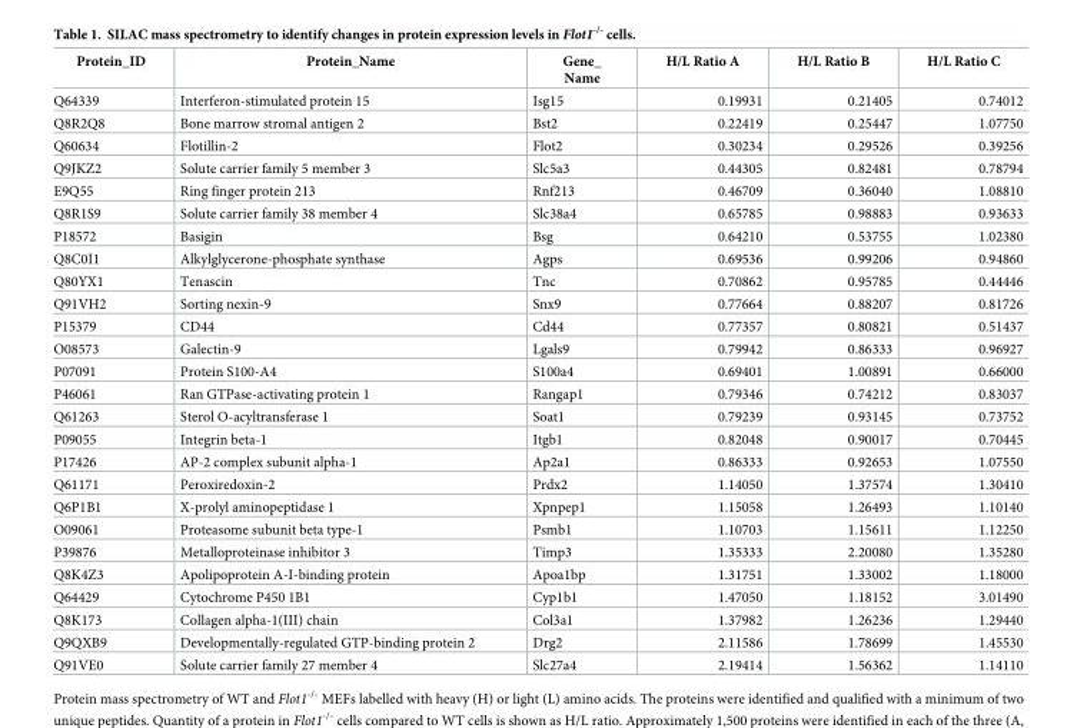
<table><thead><tr><td>Protein_ID</td><td>Protein_Name</td><td>Gene_ Name</td><td>H/L Ratio A</td><td>H/L Ratio B</td><td>H/L Ratio C</td></tr></thead><tbody><tr><td>Q64339</td><td>Interferon-stimulated protein 15</td><td>Isg15</td><td>0.19931</td><td>0.21405</td><td>0.74012</td></tr><tr><td>Q8R2Q8</td><td>Bone marrow stromal antigen 2</td><td>Bst2</td><td>0.22419</td><td>0.25447</td><td>1.07750</td></tr><tr><td>Q60634</td><td>Flotillin-2</td><td>Flot2</td><td>0.30234</td><td>0.29526</td><td>0.39256</td></tr><tr><td>Q9JKZ2</td><td>Solute carrier family 5 member 3</td><td>Slc5a3</td><td>0.44305</td><td>0.82481</td><td>0.78794</td></tr><tr><td>E9Q55</td><td>Ring finger protein 213</td><td>Rnf213</td><td>0.46709</td><td>0.36040</td><td>1.08810</td></tr><tr><td>Q8R1S9</td><td>Solute carrier family 38 member 4</td><td>Slc38a4</td><td>0.65785</td><td>0.98883</td><td>0.93633</td></tr><tr><td>P18572</td><td>Basigin</td><td>Bsg</td><td>0.64210</td><td>0.53755</td><td>1.02380</td></tr><tr><td>Q8C0I1</td><td>Alkylglycerone-phosphate synthase</td><td>Agps</td><td>0.69536</td><td>0.99206</td><td>0.94860</td></tr><tr><td>Q80YX1</td><td>Tenascin</td><td>Tnc</td><td>0.70862</td><td>0.95785</td><td>0.44446</td></tr><tr><td>Q91VH2</td><td>Sorting nexin-9</td><td>Snx9</td><td>0.77664</td><td>0.88207</td><td>0.81726</td></tr><tr><td>P15379</td><td>CD44</td><td>Cd44</td><td>0.77357</td><td>0.80821</td><td>0.51437</td></tr><tr><td>O08573</td><td>Galectin-9</td><td>Lgals9</td><td>0.79942</td><td>0.86333</td><td>0.96927</td></tr><tr><td>P07091</td><td>Protein S100-A4</td><td>S100a4</td><td>0.69401</td><td>1.00891</td><td>0.66000</td></tr><tr><td>P46061</td><td>Ran GTPase-activating protein 1</td><td>Rangap1</td><td>0.79346</td><td>0.74212</td><td>0.83037</td></tr><tr><td>Q61263</td><td>Sterol O-acyltransferase 1</td><td>Soat1</td><td>0.79239</td><td>0.93145</td><td>0.73752</td></tr><tr><td>P09055</td><td>Integrin beta-1</td><td>Itgb1</td><td>0.82048</td><td>0.90017</td><td>0.70445</td></tr><tr><td>P17426</td><td>AP-2 complex subunit alpha-1</td><td>Ap2a1</td><td>0.86333</td><td>0.92653</td><td>1.07550</td></tr><tr><td>Q61171</td><td>Peroxiredoxin-2</td><td>Prdx2</td><td>1.14050</td><td>1.37574</td><td>1.30410</td></tr><tr><td>Q6P1B1</td><td>X-prolyl aminopeptidase 1</td><td>Xpnpep1</td><td>1.15058</td><td>1.26493</td><td>1.10140</td></tr><tr><td>O09061</td><td>Proteasome subunit beta type-1</td><td>Psmb1</td><td>1.10703</td><td>1.15611</td><td>1.12250</td></tr><tr><td>P39876</td><td>Metalloproteinase inhibitor 3</td><td>Timp3</td><td>1.35333</td><td>2.20080</td><td>1.35280</td></tr><tr><td>Q8K4Z3</td><td>Apolipoprotein A-I-binding protein</td><td>Apoa1bp</td><td>1.31751</td><td>1.33002</td><td>1.18000</td></tr><tr><td>Q64429</td><td>Cytochrome P450 1B1</td><td>Cyp1b1</td><td>1.47050</td><td>1.18152</td><td>3.01490</td></tr><tr><td>Q8K173</td><td>Collagen alpha-1(III) chain</td><td>Col3a1</td><td>1.37982</td><td>1.26236</td><td>1.29440</td></tr><tr><td>Q9QXB9</td><td>Developmentally-regulated GTP-binding protein 2</td><td>Drg2</td><td>2.11586</td><td>1.78699</td><td>1.45530</td></tr><tr><td>Q91VE0</td><td>Solute carrier family 27 member 4</td><td>Slc27a4</td><td>2.19414</td><td>1.56362</td><td>1.14110</td></tr></tbody></table>